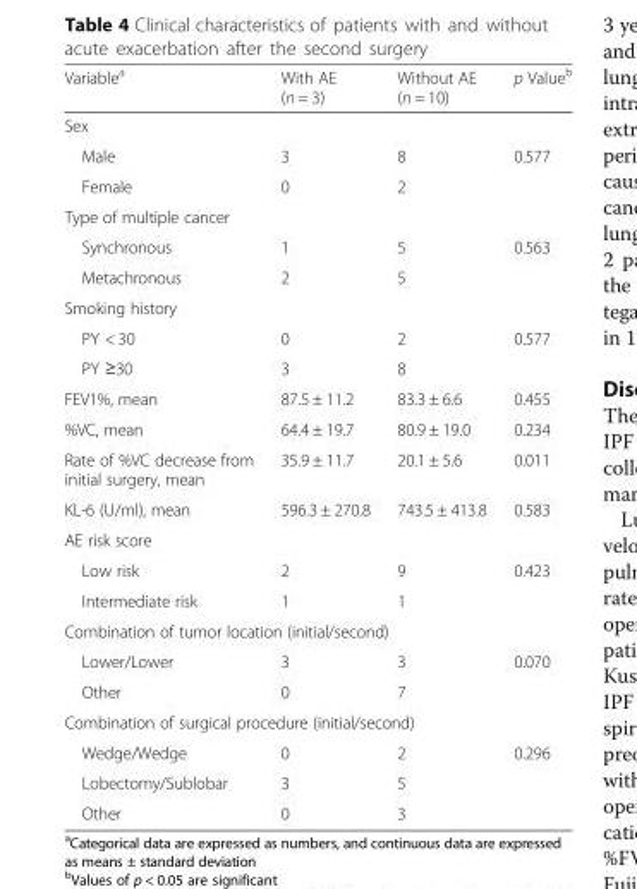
<table><thead><tr><td>Variable<sup>a</sup></td><td>With AE (n = 3)</td><td>Without AE (n = 10)</td><td>p Value<sup>b</sup></td></tr></thead><tbody><tr><td colspan="4">Sex</td></tr><tr><td>Male</td><td>3</td><td>8</td><td rowspan="2">0.577</td></tr><tr><td>Female</td><td>0</td><td>2</td></tr><tr><td colspan="4">Type of multiple cancer</td></tr><tr><td>Synchronous</td><td>1</td><td>5</td><td rowspan="2">0.563</td></tr><tr><td>Metachronous</td><td>2</td><td>5</td></tr><tr><td colspan="4">Smoking history</td></tr><tr><td>PY &lt; 30</td><td>0</td><td>2</td><td rowspan="2">0.577</td></tr><tr><td>PY ≥30</td><td>3</td><td>8</td></tr><tr><td>FEV1%, mean</td><td>87.5 ± 11.2</td><td>83.3 ± 6.6</td><td>0.455</td></tr><tr><td>%VC, mean</td><td>64.4 ± 19.7</td><td>80.9 ± 19.0</td><td>0.234</td></tr><tr><td>Rate of %VC decrease from initial surgery, mean</td><td>35.9 ± 11.7</td><td>20.1 ± 5.6</td><td>0.011</td></tr><tr><td>KL-6 (U/ml), mean</td><td>596.3 ± 270.8</td><td>743.5 ± 413.8</td><td>0.583</td></tr><tr><td colspan="4">AE risk score</td></tr><tr><td>Low risk</td><td>2</td><td>9</td><td rowspan="2">0.423</td></tr><tr><td>Intermediate risk</td><td>1</td><td>1</td></tr><tr><td colspan="4">Combination of tumor location (initial/second)</td></tr><tr><td>Lower/Lower</td><td>3</td><td>3</td><td rowspan="2">0.070</td></tr><tr><td>Other</td><td>0</td><td>7</td></tr><tr><td colspan="4">Combination of surgical procedure (initial/second)</td></tr><tr><td>Wedge/Wedge</td><td>0</td><td>2</td><td rowspan="3">0.296</td></tr><tr><td>Lobectomy/Sublobar</td><td>3</td><td>5</td></tr><tr><td>Other</td><td>0</td><td>3</td></tr></tbody></table>